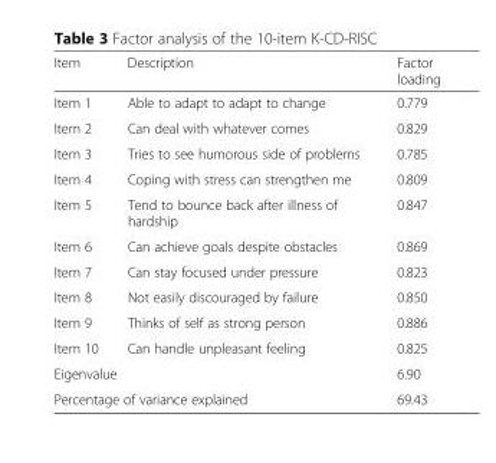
<table><thead><tr><td>Item</td><td>Description</td><td>Factor loading</td></tr></thead><tbody><tr><td>Item 1</td><td>Able to adapt to adapt to change</td><td>0.779</td></tr><tr><td>Item 2</td><td>Can deal with whatever comes</td><td>0.829</td></tr><tr><td>Item 3</td><td>Tries to see humorous side of problems</td><td>0.785</td></tr><tr><td>Item 4</td><td>Coping with stress can strengthen me</td><td>0.809</td></tr><tr><td>Item 5</td><td>Tend to bounce back after illness of hardship</td><td>0.847</td></tr><tr><td>Item 6</td><td>Can achieve goals despite obstacles</td><td>0.869</td></tr><tr><td>Item 7</td><td>Can stay focused under pressure</td><td>0.823</td></tr><tr><td>Item 8</td><td>Not easily discouraged by failure</td><td>0.850</td></tr><tr><td>Item 9</td><td>Thinks of self as strong person</td><td>0.886</td></tr><tr><td>Item 10</td><td>Can handle unpleasant feeling</td><td>0.825</td></tr><tr><td>Eigenvalue</td><td></td><td>6.90</td></tr><tr><td colspan="2">Percentage of variance explained</td><td>69.43</td></tr></tbody></table>